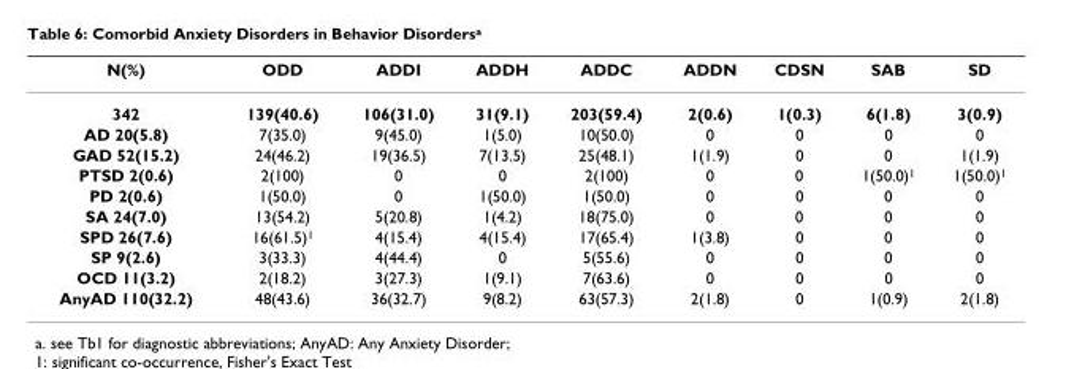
<table><thead><tr><td>N(%)</td><td>ODD</td><td>ADDI</td><td>ADDH</td><td>ADDC</td><td>ADDN</td><td>CDSN</td><td>SAB</td><td>SD</td></tr></thead><tbody><tr><td>342</td><td>139(40.6)</td><td>106(31.0)</td><td>31(9.1)</td><td>203(59.4)</td><td>2(0.6)</td><td>1(0.3)</td><td>6(1.8)</td><td>3(0.9)</td></tr><tr><td>AD 20(5.8)</td><td>7(35.0)</td><td>9(45.0)</td><td>1(5.0)</td><td>10(50.0)</td><td>0</td><td>0</td><td>0</td><td>0</td></tr><tr><td>GAD 52(15.2)</td><td>24(46.2)</td><td>19(36.5)</td><td>7(13.5)</td><td>25(48.1)</td><td>1(1.9)</td><td>0</td><td>0</td><td>1(1.9)</td></tr><tr><td>PTSD 2(0.6)</td><td>2(100)</td><td>0</td><td>0</td><td>2(100)</td><td>0</td><td>0</td><td>1(50.0)<sup>1</sup></td><td>1(50.0)<sup>1</sup></td></tr><tr><td>PD 2(0.6)</td><td>1(50.0)</td><td>0</td><td>1(50.0)</td><td>1(50.0)</td><td>0</td><td>0</td><td>0</td><td>0</td></tr><tr><td>SA 24(7.0)</td><td>13(54.2)</td><td>5(20.8)</td><td>1(4.2)</td><td>18(75.0)</td><td>0</td><td>0</td><td>0</td><td>0</td></tr><tr><td>SPD 26(7.6)</td><td>16(61.5)<sup>1</sup></td><td>4(15.4)</td><td>4(15.4)</td><td>17(65.4)</td><td>1(3.8)</td><td>0</td><td>0</td><td>0</td></tr><tr><td>SP 9(2.6)</td><td>3(33.3)</td><td>4(44.4)</td><td>0</td><td>5(55.6)</td><td>0</td><td>0</td><td>0</td><td>0</td></tr><tr><td>OCD 11(3.2)</td><td>2(18.2)</td><td>3(27.3)</td><td>1(9.1)</td><td>7(63.6)</td><td>0</td><td>0</td><td>0</td><td>0</td></tr><tr><td>AnyAD 110(32.2)</td><td>48(43.6)</td><td>36(32.7)</td><td>9(8.2)</td><td>63(57.3)</td><td>2(1.8)</td><td>0</td><td>1(0.9)</td><td>2(1.8)</td></tr></tbody></table>